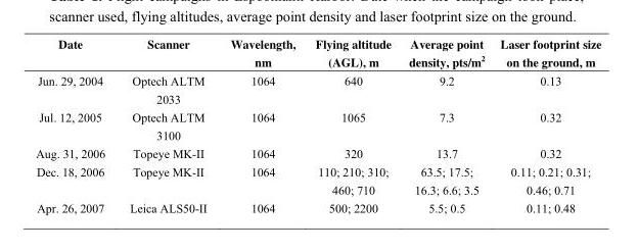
<table><thead><tr><td>Date</td><td>Scanner</td><td>Wavelength, nm</td><td>Flying altitude (AGL), m</td><td>Average point density, pts/m<sup>2</sup></td><td>Laser footprint size on the ground, m</td></tr></thead><tbody><tr><td>Jun. 29, 2004</td><td>Optech ALTM 2033</td><td>1064</td><td>640</td><td>9.2</td><td>0.13</td></tr><tr><td>Jul. 12, 2005</td><td>Optech ALTM 3100</td><td>1064</td><td>1065</td><td>7.3</td><td>0.32</td></tr><tr><td>Aug. 31, 2006</td><td>Topeye MK-II</td><td>1064</td><td>320</td><td>13.7</td><td>0.32</td></tr><tr><td>Dec. 18, 2006</td><td>Topeye MK-II</td><td>1064</td><td>110; 210; 310; 460; 710</td><td>63.5; 17.5; 16.3; 6.6; 3.5</td><td>0.11; 0.21; 0.31; 0.46; 0.71</td></tr><tr><td>Apr. 26, 2007</td><td>Leica ALS50-II</td><td>1064</td><td>500; 2200</td><td>5.5; 0.5</td><td>0.11; 0.48</td></tr></tbody></table>